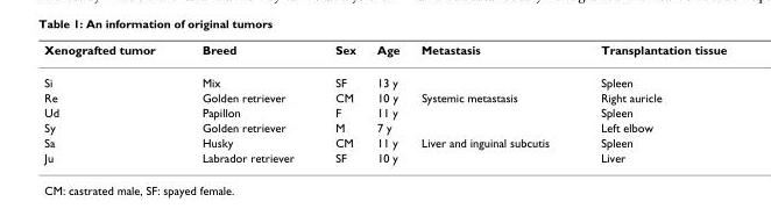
<table><thead><tr><td>Xenografted tumor</td><td>Breed</td><td>Sex</td><td>Age</td><td>Metastasis</td><td>Transplantation tissue</td></tr></thead><tbody><tr><td>Si</td><td>Mix</td><td>SF</td><td>13 y</td><td></td><td>Spleen</td></tr><tr><td>Re</td><td>Golden retriever</td><td>CM</td><td>10 y</td><td>Systemic metastasis</td><td>Right auricle</td></tr><tr><td>Ud</td><td>Papillon</td><td>F</td><td>11 y</td><td></td><td>Spleen</td></tr><tr><td>Sy</td><td>Golden retriever</td><td>M</td><td>7 y</td><td></td><td>Left elbow</td></tr><tr><td>Sa</td><td>Husky</td><td>CM</td><td>11 y</td><td>Liver and inguinal subcutis</td><td>Spleen</td></tr><tr><td>Ju</td><td>Labrador retriever</td><td>SF</td><td>10 y</td><td></td><td>Liver</td></tr></tbody></table>